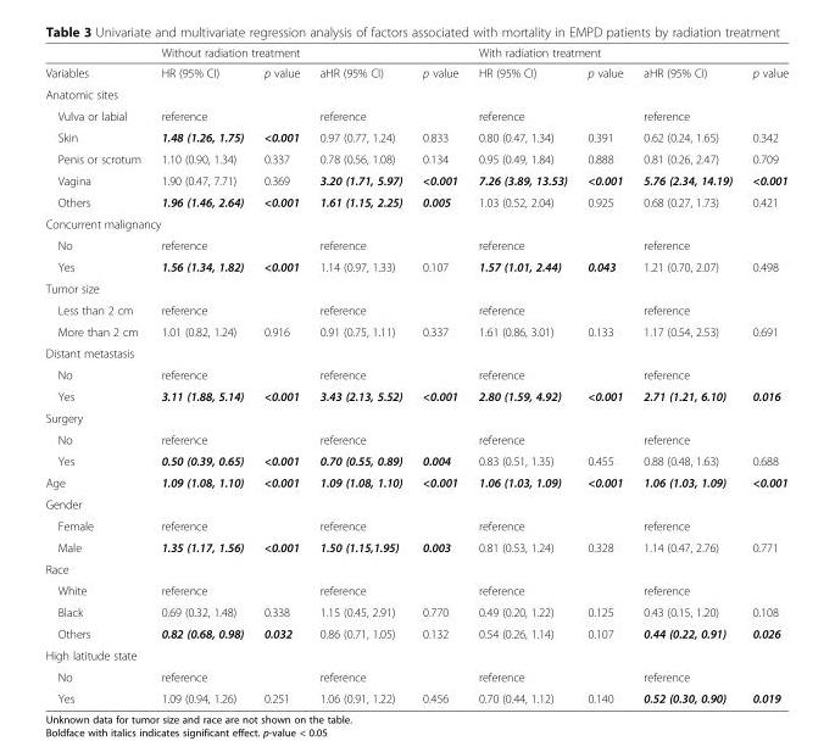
<table><thead><tr><td rowspan="2">Variables</td><td colspan="4">Without radiation treatment</td><td colspan="4">With radiation treatment</td></tr><tr><td>HR (95% CI)</td><td>p value</td><td>aHR (95% CI)</td><td>p value</td><td>HR (95% CI)</td><td>p value</td><td>aHR (95% CI)</td><td>p value</td></tr></thead><tbody><tr><td colspan="9">Anatomic sites</td></tr><tr><td>Vulva or labial</td><td>reference</td><td></td><td>reference</td><td></td><td>reference</td><td></td><td>reference</td><td></td></tr><tr><td>Skin</td><td>1.48 (1.26, 1.75)</td><td>&lt;0.001</td><td>0.97 (0.77, 1.24)</td><td>0.833</td><td>0.80 (0.47, 1.34)</td><td>0.391</td><td>0.62 (0.24, 1.65)</td><td>0.342</td></tr><tr><td>Penis or scrotum</td><td>1.10 (0.90, 1.34)</td><td>0.337</td><td>0.78 (0.56, 1.08)</td><td>0.134</td><td>0.95 (0.49, 1.84)</td><td>0.888</td><td>0.81 (0.26, 2.47)</td><td>0.709</td></tr><tr><td>Vagina</td><td>1.90 (0.47, 7.71)</td><td>0.369</td><td>3.20 (1.71, 5.97)</td><td>&lt;0.001</td><td>7.26 (3.89, 13.53)</td><td>&lt;0.001</td><td>5.76 (2.34, 14.19)</td><td>&lt;0.001</td></tr><tr><td>Others</td><td>1.96 (1.46, 2.64)</td><td>&lt;0.001</td><td>1.61 (1.15, 2.25)</td><td>0.005</td><td>1.03 (0.52, 2.04)</td><td>0.925</td><td>0.68 (0.27, 1.73)</td><td>0.421</td></tr><tr><td colspan="9">Concurrent malignancy</td></tr><tr><td>No</td><td>reference</td><td></td><td>reference</td><td></td><td>reference</td><td></td><td>reference</td><td></td></tr><tr><td>Yes</td><td>1.56 (1.34, 1.82)</td><td>&lt;0.001</td><td>1.14 (0.97, 1.33)</td><td>0.107</td><td>1.57 (1.01, 2.44)</td><td>0.043</td><td>1.21 (0.70, 2.07)</td><td>0.498</td></tr><tr><td colspan="9">Tumor size</td></tr><tr><td>Less than 2 cm</td><td>reference</td><td></td><td>reference</td><td></td><td>reference</td><td></td><td>reference</td><td></td></tr><tr><td>More than 2 cm</td><td>1.01 (0.82, 1.24)</td><td>0.916</td><td>0.91 (0.75, 1.11)</td><td>0.337</td><td>1.61 (0.86, 3.01)</td><td>0.133</td><td>1.17 (0.54, 2.53)</td><td>0.691</td></tr><tr><td colspan="9">Distant metastasis</td></tr><tr><td>No</td><td>reference</td><td></td><td>reference</td><td></td><td>reference</td><td></td><td>reference</td><td></td></tr><tr><td>Yes</td><td>3.11 (1.88, 5.14)</td><td>&lt;0.001</td><td>3.43 (2.13, 5.52)</td><td>&lt;0.001</td><td>2.80 (1.59, 4.92)</td><td>&lt;0.001</td><td>2.71 (1.21, 6.10)</td><td>0.016</td></tr><tr><td colspan="9">Surgery</td></tr><tr><td>No</td><td>reference</td><td></td><td>reference</td><td></td><td>reference</td><td></td><td>reference</td><td></td></tr><tr><td>Yes</td><td>0.50 (0.39, 0.65)</td><td>&lt;0.001</td><td>0.70 (0.55, 0.89)</td><td>0.004</td><td>0.83 (0.51, 1.35)</td><td>0.455</td><td>0.88 (0.48, 1.63)</td><td>0.688</td></tr><tr><td>Age</td><td>1.09 (1.08, 1.10)</td><td>&lt;0.001</td><td>1.09 (1.08, 1.10)</td><td>&lt;0.001</td><td>1.06 (1.03, 1.09)</td><td>&lt;0.001</td><td>1.06 (1.03, 1.09)</td><td>&lt;0.001</td></tr><tr><td colspan="9">Gender</td></tr><tr><td>Female</td><td>reference</td><td></td><td>reference</td><td></td><td>reference</td><td></td><td>reference</td><td></td></tr><tr><td>Male</td><td>1.35 (1.17, 1.56)</td><td>&lt;0.001</td><td>1.50 (1.15,1.95)</td><td>0.003</td><td>0.81 (0.53, 1.24)</td><td>0.328</td><td>1.14 (0.47, 2.76)</td><td>0.771</td></tr><tr><td colspan="9">Race</td></tr><tr><td>White</td><td>reference</td><td></td><td>reference</td><td></td><td>reference</td><td></td><td>reference</td><td></td></tr><tr><td>Black</td><td>0.69 (0.32, 1.48)</td><td>0.338</td><td>1.15 (0.45, 2.91)</td><td>0.770</td><td>0.49 (0.20, 1.22)</td><td>0.125</td><td>0.43 (0.15, 1.20)</td><td>0.108</td></tr><tr><td>Others</td><td>0.82 (0.68, 0.98)</td><td>0.032</td><td>0.86 (0.71, 1.05)</td><td>0.132</td><td>0.54 (0.26, 1.14)</td><td>0.107</td><td>0.44 (0.22, 0.91)</td><td>0.026</td></tr><tr><td colspan="9">High latitude state</td></tr><tr><td>No</td><td>reference</td><td></td><td>reference</td><td></td><td>reference</td><td></td><td>reference</td><td></td></tr><tr><td>Yes</td><td>1.09 (0.94, 1.26)</td><td>0.251</td><td>1.06 (0.91, 1.22)</td><td>0.456</td><td>0.70 (0.44, 1.12)</td><td>0.140</td><td>0.52 (0.30, 0.90)</td><td>0.019</td></tr></tbody></table>